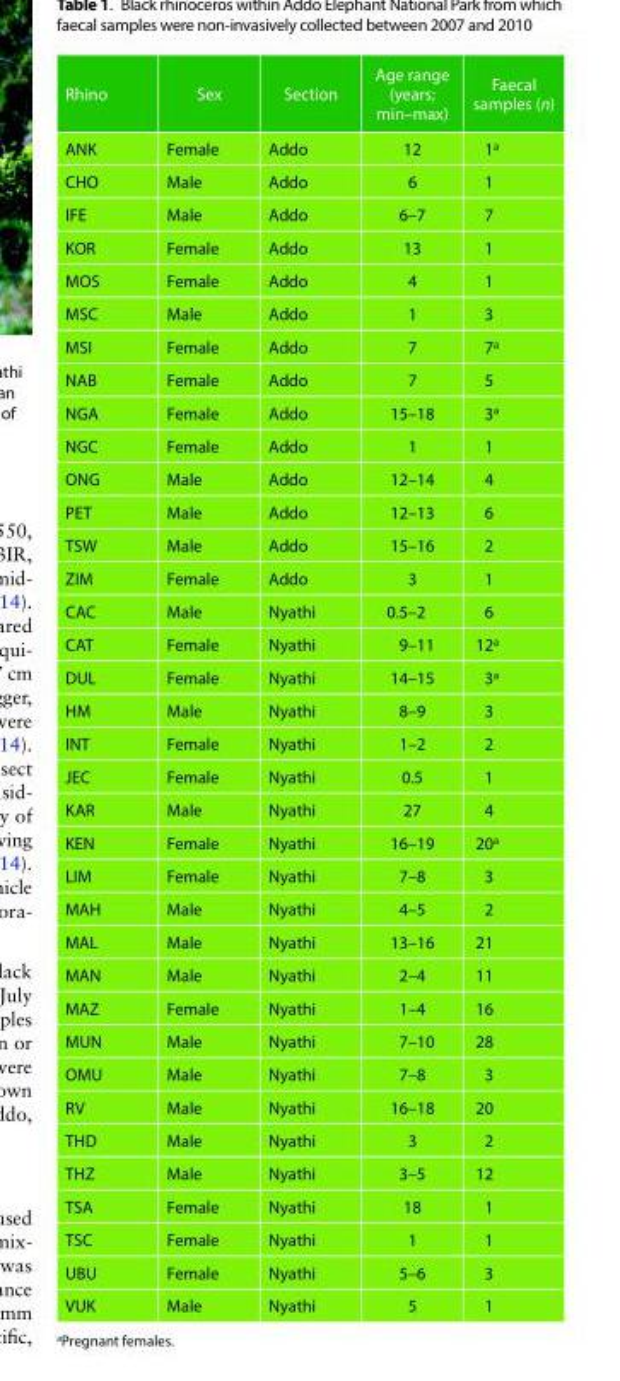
<table><thead><tr><td>Rhino</td><td>Sex</td><td>Section</td><td>Age range (years; min–max)</td><td>Faecal samples (n)</td></tr></thead><tbody><tr><td>ANK</td><td>Female</td><td>Addo</td><td>12</td><td>1<sup>a</sup></td></tr><tr><td>CHO</td><td>Male</td><td>Addo</td><td>6</td><td>1</td></tr><tr><td>IFE</td><td>Male</td><td>Addo</td><td>6–7</td><td>7</td></tr><tr><td>KOR</td><td>Female</td><td>Addo</td><td>13</td><td>1</td></tr><tr><td>MOS</td><td>Female</td><td>Addo</td><td>4</td><td>1</td></tr><tr><td>MSC</td><td>Male</td><td>Addo</td><td>1</td><td>3</td></tr><tr><td>MSI</td><td>Female</td><td>Addo</td><td>7</td><td>7<sup>a</sup></td></tr><tr><td>NAB</td><td>Female</td><td>Addo</td><td>7</td><td>5</td></tr><tr><td>NGA</td><td>Female</td><td>Addo</td><td>15–18</td><td>3<sup>a</sup></td></tr><tr><td>NGC</td><td>Female</td><td>Addo</td><td>1</td><td>1</td></tr><tr><td>ONG</td><td>Male</td><td>Addo</td><td>12–14</td><td>4</td></tr><tr><td>PET</td><td>Male</td><td>Addo</td><td>12–13</td><td>6</td></tr><tr><td>TSW</td><td>Male</td><td>Addo</td><td>15–16</td><td>2</td></tr><tr><td>ZIM</td><td>Female</td><td>Addo</td><td>3</td><td>1</td></tr><tr><td>CAC</td><td>Male</td><td>Nyathi</td><td>0.5–2</td><td>6</td></tr><tr><td>CAT</td><td>Female</td><td>Nyathi</td><td>9–11</td><td>12<sup>a</sup></td></tr><tr><td>DUL</td><td>Female</td><td>Nyathi</td><td>14–15</td><td>3<sup>a</sup></td></tr><tr><td>HM</td><td>Male</td><td>Nyathi</td><td>8–9</td><td>3</td></tr><tr><td>INT</td><td>Female</td><td>Nyathi</td><td>1–2</td><td>2</td></tr><tr><td>JEC</td><td>Female</td><td>Nyathi</td><td>0.5</td><td>1</td></tr><tr><td>KAR</td><td>Male</td><td>Nyathi</td><td>27</td><td>4</td></tr><tr><td>KEN</td><td>Female</td><td>Nyathi</td><td>16–19</td><td>20<sup>a</sup></td></tr><tr><td>LIM</td><td>Female</td><td>Nyathi</td><td>7–8</td><td>3</td></tr><tr><td>MAH</td><td>Male</td><td>Nyathi</td><td>4–5</td><td>2</td></tr><tr><td>MAL</td><td>Male</td><td>Nyathi</td><td>13–16</td><td>21</td></tr><tr><td>MAN</td><td>Male</td><td>Nyathi</td><td>2–4</td><td>11</td></tr><tr><td>MAZ</td><td>Female</td><td>Nyathi</td><td>1–4</td><td>16</td></tr><tr><td>MUN</td><td>Male</td><td>Nyathi</td><td>7–10</td><td>28</td></tr><tr><td>OMU</td><td>Male</td><td>Nyathi</td><td>7–8</td><td>3</td></tr><tr><td>RV</td><td>Male</td><td>Nyathi</td><td>16–18</td><td>20</td></tr><tr><td>THD</td><td>Male</td><td>Nyathi</td><td>3</td><td>2</td></tr><tr><td>THZ</td><td>Male</td><td>Nyathi</td><td>3–5</td><td>12</td></tr><tr><td>TSA</td><td>Female</td><td>Nyathi</td><td>18</td><td>1</td></tr><tr><td>TSC</td><td>Female</td><td>Nyathi</td><td>1</td><td>1</td></tr><tr><td>UBU</td><td>Female</td><td>Nyathi</td><td>5–6</td><td>3</td></tr><tr><td>VUK</td><td>Male</td><td>Nyathi</td><td>5</td><td>1</td></tr></tbody></table>